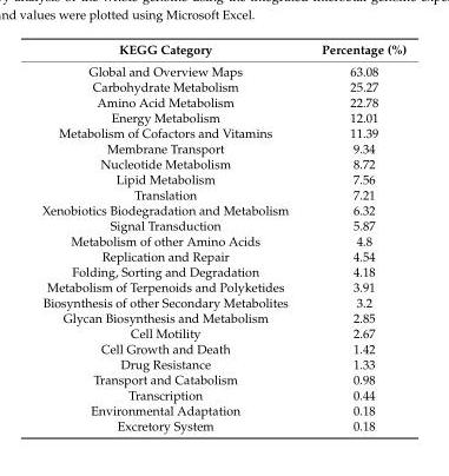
<table><thead><tr><td>KEGG Category</td><td>Percentage (%)</td></tr></thead><tbody><tr><td>Global and Overview Maps</td><td>63.08</td></tr><tr><td>Carbohydrate Metabolism</td><td>25.27</td></tr><tr><td>Amino Acid Metabolism</td><td>22.78</td></tr><tr><td>Energy Metabolism</td><td>12.01</td></tr><tr><td>Metabolism of Cofactors and Vitamins</td><td>11.39</td></tr><tr><td>Membrane Transport</td><td>9.34</td></tr><tr><td>Nucleotide Metabolism</td><td>8.72</td></tr><tr><td>Lipid Metabolism</td><td>7.56</td></tr><tr><td>Translation</td><td>7.21</td></tr><tr><td>Xenobiotics Biodegradation and Metabolism</td><td>6.32</td></tr><tr><td>Signal Transduction</td><td>5.87</td></tr><tr><td>Metabolism of other Amino Acids</td><td>4.8</td></tr><tr><td>Replication and Repair</td><td>4.54</td></tr><tr><td>Folding, Sorting and Degradation</td><td>4.18</td></tr><tr><td>Metabolism of Terpenoids and Polyketides</td><td>3.91</td></tr><tr><td>Biosynthesis of other Secondary Metabolites</td><td>3.2</td></tr><tr><td>Glycan Biosynthesis and Metabolism</td><td>2.85</td></tr><tr><td>Cell Motility</td><td>2.67</td></tr><tr><td>Cell Growth and Death</td><td>1.42</td></tr><tr><td>Drug Resistance</td><td>1.33</td></tr><tr><td>Transport and Catabolism</td><td>0.98</td></tr><tr><td>Transcription</td><td>0.44</td></tr><tr><td>Environmental Adaptation</td><td>0.18</td></tr><tr><td>Excretory System</td><td>0.18</td></tr></tbody></table>